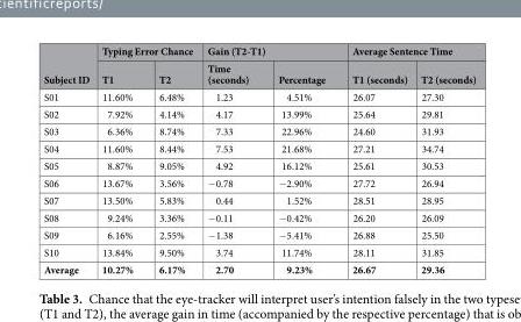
<table><thead><tr><td rowspan="2">Subject ID</td><td colspan="2">Typing Error Chance</td><td colspan="2">Gain (T2-T1)</td><td colspan="2">Average Sentence Time</td></tr><tr><td>T1</td><td>T2</td><td>Time (seconds)</td><td>Percentage</td><td>T1 (seconds)</td><td>T2 (seconds)</td></tr></thead><tbody><tr><td>S01</td><td>11.60%</td><td>6.48%</td><td>1.23</td><td>4.51%</td><td>26.07</td><td>27.30</td></tr><tr><td>S02</td><td>7.92%</td><td>4.14%</td><td>4.17</td><td>13.99%</td><td>25.64</td><td>29.81</td></tr><tr><td>S03</td><td>6.36%</td><td>8.74%</td><td>7.33</td><td>22.96%</td><td>24.60</td><td>31.93</td></tr><tr><td>S04</td><td>11.60%</td><td>8.44%</td><td>7.53</td><td>21.68%</td><td>27.21</td><td>34.74</td></tr><tr><td>S05</td><td>8.87%</td><td>9.05%</td><td>4.92</td><td>16.12%</td><td>25.61</td><td>30.53</td></tr><tr><td>S06</td><td>13.67%</td><td>3.56%</td><td>−0.78</td><td>−2.90%</td><td>27.72</td><td>26.94</td></tr><tr><td>S07</td><td>13.50%</td><td>5.83%</td><td>0.44</td><td>1.52%</td><td>28.51</td><td>28.95</td></tr><tr><td>S08</td><td>9.24%</td><td>3.36%</td><td>−0.11</td><td>−0.42%</td><td>26.20</td><td>26.09</td></tr><tr><td>S09</td><td>6.16%</td><td>2.55%</td><td>−1.38</td><td>−5.41%</td><td>26.88</td><td>25.50</td></tr><tr><td>S10</td><td>13.84%</td><td>9.50%</td><td>3.74</td><td>11.74%</td><td>28.11</td><td>31.85</td></tr><tr><td>Average</td><td>10.27%</td><td>6.17%</td><td>2.70</td><td>9.23%</td><td>26.67</td><td>29.36</td></tr></tbody></table>